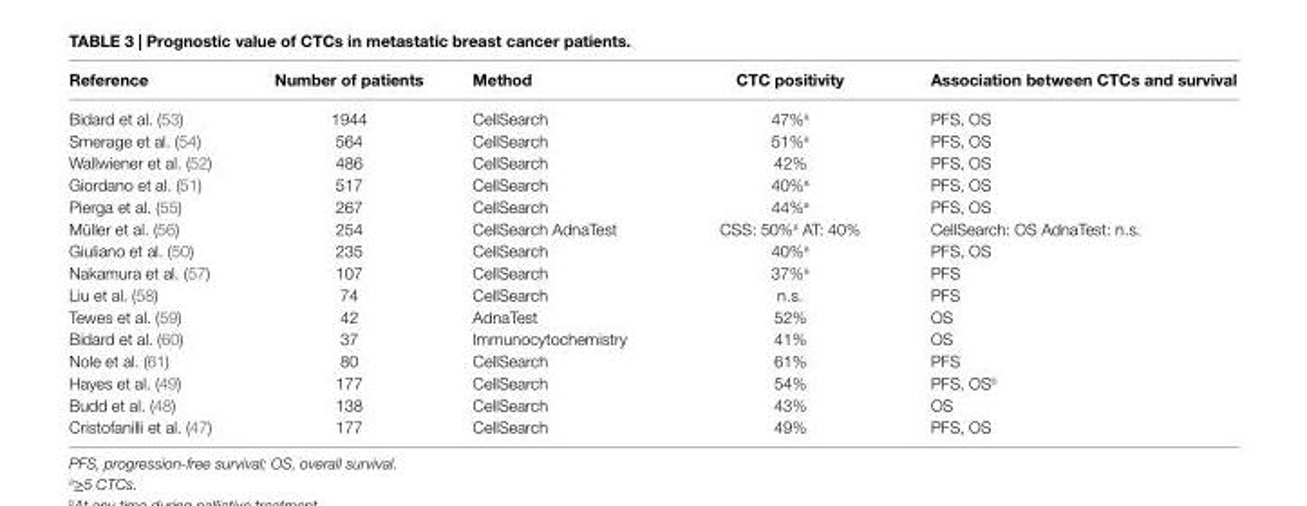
<table><thead><tr><td>Reference</td><td>Number of patients</td><td>Method</td><td>CTC positivity</td><td>Association between CTCs and survival</td></tr></thead><tbody><tr><td>Bidard et al. (53)</td><td>1944</td><td>CellSearch</td><td>47%<sup>a</sup></td><td>PFS, OS</td></tr><tr><td>Smerage et al. (54)</td><td>564</td><td>CellSearch</td><td>51%<sup>a</sup></td><td>PFS, OS</td></tr><tr><td>Wallwiener et al. (52)</td><td>486</td><td>CellSearch</td><td>42%</td><td>PFS, OS</td></tr><tr><td>Giordano et al. (51)</td><td>517</td><td>CellSearch</td><td>40%<sup>a</sup></td><td>PFS, OS</td></tr><tr><td>Pierga et al. (55)</td><td>267</td><td>CellSearch</td><td>44%<sup>a</sup></td><td>PFS, OS</td></tr><tr><td>Müller et al. (56)</td><td>254</td><td>CellSearch AdnaTest</td><td>CSS: 50%<sup>a</sup> AT: 40%</td><td>CellSearch: OS AdnaTest: n.s.</td></tr><tr><td>Giuliano et al. (50)</td><td>235</td><td>CellSearch</td><td>40%<sup>a</sup></td><td>PFS, OS</td></tr><tr><td>Nakamura et al. (57)</td><td>107</td><td>CellSearch</td><td>37%<sup>a</sup></td><td>PFS</td></tr><tr><td>Liu et al. (58)</td><td>74</td><td>CellSearch</td><td>n.s.</td><td>PFS</td></tr><tr><td>Tewes et al. (59)</td><td>42</td><td>AdnaTest</td><td>52%</td><td>OS</td></tr><tr><td>Bidard et al. (60)</td><td>37</td><td>Immunocytochemistry</td><td>41%</td><td>OS</td></tr><tr><td>Nole et al. (61)</td><td>80</td><td>CellSearch</td><td>61%</td><td>PFS</td></tr><tr><td>Hayes et al. (49)</td><td>177</td><td>CellSearch</td><td>54%</td><td>PFS, OS<sup>b</sup></td></tr><tr><td>Budd et al. (48)</td><td>138</td><td>CellSearch</td><td>43%</td><td>OS</td></tr><tr><td>Cristofanilli et al. (47)</td><td>177</td><td>CellSearch</td><td>49%</td><td>PFS, OS</td></tr></tbody></table>